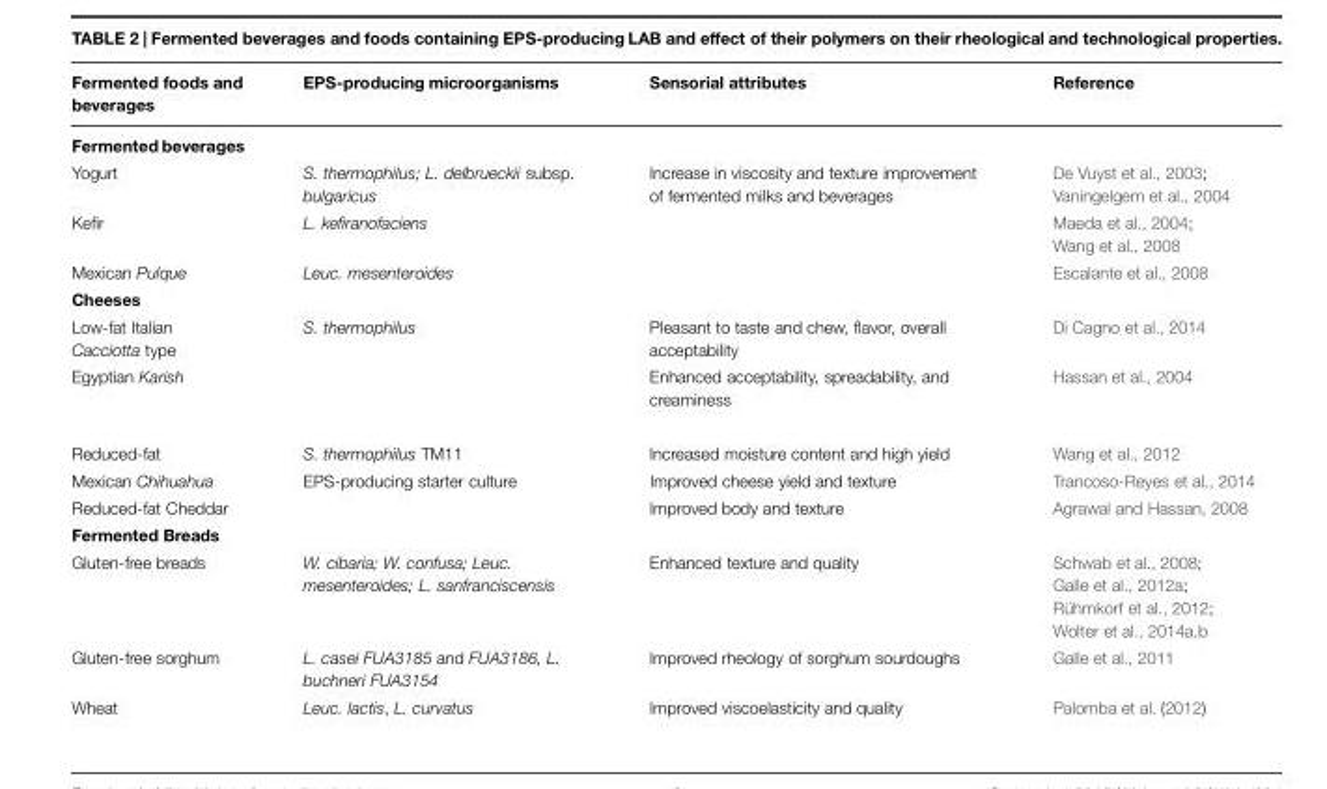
<table><thead><tr><td>Fermented foods and beverages</td><td>EPS-producing microorganisms</td><td>Sensorial attributes</td><td>Reference</td></tr></thead><tbody><tr><td colspan="4">Fermented beverages</td></tr><tr><td>Yogurt</td><td>S. thermophilus; L. delbrueckii subsp. bulgaricus</td><td>Increase in viscosity and texture improvement of fermented milks and beverages</td><td>De Vuyst et al., 2003; Vaningelgem et al., 2004</td></tr><tr><td>Kefir</td><td>L. kefiranofaciens</td><td></td><td>Maeda et al., 2004; Wang et al., 2008</td></tr><tr><td>Mexican Pulque</td><td>Leuc. mesenteroides</td><td></td><td>Escalante et al., 2008</td></tr><tr><td colspan="4">Cheeses</td></tr><tr><td>Low-fat Italian Cacciotta type</td><td>S. thermophilus</td><td>Pleasant to taste and chew, flavor, overall acceptability</td><td>Di Cagno et al., 2014</td></tr><tr><td>Egyptian Karish</td><td></td><td>Enhanced acceptability, spreadability, and creaminess</td><td>Hassan et al., 2004</td></tr><tr><td>Reduced-fat</td><td>S. thermophilus TM11</td><td>Increased moisture content and high yield</td><td>Wang et al., 2012</td></tr><tr><td>Mexican Chihuahua</td><td>EPS-producing starter culture</td><td>Improved cheese yield and texture</td><td>Trancoso-Reyes et al., 2014</td></tr><tr><td>Reduced-fat Cheddar</td><td></td><td>Improved body and texture</td><td>Agrawal and Hassan, 2008</td></tr><tr><td colspan="4">Fermented Breads</td></tr><tr><td>Gluten-free breads</td><td>W. cibaria; W. confusa; Leuc. mesenteroides; L. sanfranciscensis</td><td>Enhanced texture and quality</td><td>Schwab et al., 2008; Galle et al., 2012a; Rühmkorf et al., 2012; Wolter et al., 2014a,b</td></tr><tr><td>Gluten-free sorghum</td><td>L. casei FUA3185 and FUA3186, L. buchneri FUA3154</td><td>Improved rheology of sorghum sourdoughs</td><td>Galle et al., 2011</td></tr><tr><td>Wheat</td><td>Leuc. lactis, L. curvatus</td><td>Improved viscoelasticity and quality</td><td>Palomba et al. (2012)</td></tr></tbody></table>